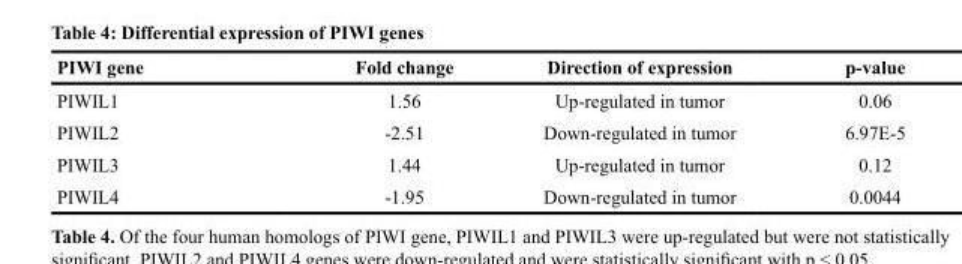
<table><thead><tr><td>PIWI gene</td><td>Fold change</td><td>Direction of expression</td><td>p-value</td></tr></thead><tbody><tr><td>PIWIL1</td><td>1.56</td><td>Up-regulated in tumor</td><td>0.06</td></tr><tr><td>PIWIL2</td><td>-2.51</td><td>Down-regulated in tumor</td><td>6.97E-5</td></tr><tr><td>PIWIL3</td><td>1.44</td><td>Up-regulated in tumor</td><td>0.12</td></tr><tr><td>PIWIL4</td><td>-1.95</td><td>Down-regulated in tumor</td><td>0.0044</td></tr></tbody></table>